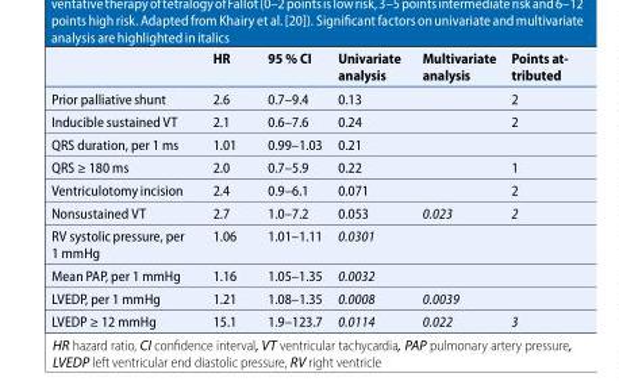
<table><thead><tr><td></td><td>HR</td><td>95 % CI</td><td>Univariate analysis</td><td>Multivariate analysis</td><td>Points at- tributed</td></tr></thead><tbody><tr><td>Prior palliativeshunt</td><td>2.6</td><td>0.7–9.4</td><td>0.13</td><td></td><td>2</td></tr><tr><td>Inducible sustained VT</td><td>2.1</td><td>0.6–7.6</td><td>0.24</td><td></td><td>2</td></tr><tr><td>QRS duration, per 1 ms</td><td>1.01</td><td>0.99–1.03</td><td>0.21</td><td></td><td></td></tr><tr><td>QRS ≥ 180 ms</td><td>2.0</td><td>0.7–5.9</td><td>0.22</td><td></td><td>1</td></tr><tr><td>Ventriculotomy incision</td><td>2.4</td><td>0.9–6.1</td><td>0.071</td><td></td><td>2</td></tr><tr><td>Nonsustained VT</td><td>2.7</td><td>1.0–7.2</td><td>0.053</td><td>0.023</td><td>2</td></tr><tr><td>RV systolic pressure, per 1 mmHg</td><td>1.06</td><td>1.01–1.11</td><td>0.0301</td><td></td><td></td></tr><tr><td>Mean PAP, per 1 mmHg</td><td>1.16</td><td>1.05–1.35</td><td>0.0032</td><td></td><td></td></tr><tr><td>LVEDP, per 1 mmHg</td><td>1.21</td><td>1.08–1.35</td><td>0.0008</td><td>0.0039</td><td></td></tr><tr><td>LVEDP ≥ 12 mmHg</td><td>15.1</td><td>1.9–123.7</td><td>0.0114</td><td>0.022</td><td>3</td></tr></tbody></table>